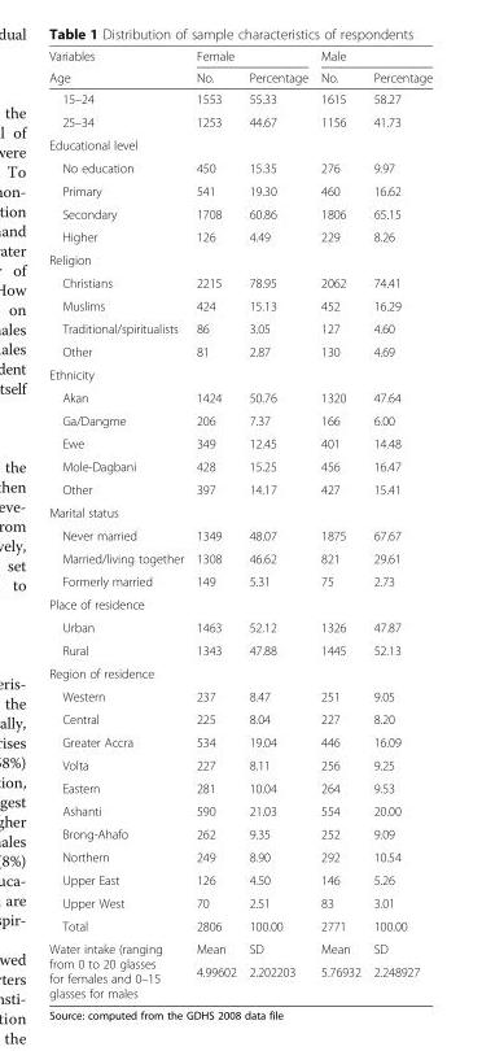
<table><thead><tr><td rowspan="2">Variables Age</td><td colspan="2">Female</td><td colspan="2">Male</td></tr><tr><td>No.</td><td>Percentage</td><td>No.</td><td>Percentage</td></tr></thead><tbody><tr><td>15–24</td><td>1553</td><td>55.33</td><td>1615</td><td>58.27</td></tr><tr><td>25–34</td><td>1253</td><td>44.67</td><td>1156</td><td>41.73</td></tr><tr><td colspan="5">Educational level</td></tr><tr><td>No education</td><td>450</td><td>15.35</td><td>276</td><td>9.97</td></tr><tr><td>Primary</td><td>541</td><td>19.30</td><td>460</td><td>16.62</td></tr><tr><td>Secondary</td><td>1708</td><td>60.86</td><td>1806</td><td>65.15</td></tr><tr><td>Higher</td><td>126</td><td>4.49</td><td>229</td><td>8.26</td></tr><tr><td colspan="5">Religion</td></tr><tr><td>Christians</td><td>2215</td><td>78.95</td><td>2062</td><td>74.41</td></tr><tr><td>Muslims</td><td>424</td><td>15.13</td><td>452</td><td>16.29</td></tr><tr><td>Traditional/spiritualists</td><td>86</td><td>3.05</td><td>127</td><td>4.60</td></tr><tr><td>Other</td><td>81</td><td>2.87</td><td>130</td><td>4.69</td></tr><tr><td colspan="5">Ethnicity</td></tr><tr><td>Akan</td><td>1424</td><td>50.76</td><td>1320</td><td>47.64</td></tr><tr><td>Ga/Dangme</td><td>206</td><td>7.37</td><td>166</td><td>6.00</td></tr><tr><td>Ewe</td><td>349</td><td>12.45</td><td>401</td><td>14.48</td></tr><tr><td>Mole-Dagbani</td><td>428</td><td>15.25</td><td>456</td><td>16.47</td></tr><tr><td>Other</td><td>397</td><td>14.17</td><td>427</td><td>15.41</td></tr><tr><td colspan="5">Marital status</td></tr><tr><td>Never married</td><td>1349</td><td>48.07</td><td>1875</td><td>67.67</td></tr><tr><td>Married/living together</td><td>1308</td><td>46.62</td><td>821</td><td>29.61</td></tr><tr><td>Formerly married</td><td>149</td><td>5.31</td><td>75</td><td>2.73</td></tr><tr><td colspan="5">Place of residence</td></tr><tr><td>Urban</td><td>1463</td><td>52.12</td><td>1326</td><td>47.87</td></tr><tr><td>Rural</td><td>1343</td><td>47.88</td><td>1445</td><td>52.13</td></tr><tr><td colspan="5">Region of residence</td></tr><tr><td>Western</td><td>237</td><td>8.47</td><td>251</td><td>9.05</td></tr><tr><td>Central</td><td>225</td><td>8.04</td><td>227</td><td>8.20</td></tr><tr><td>Greater Accra</td><td>534</td><td>19.04</td><td>446</td><td>16.09</td></tr><tr><td>Volta</td><td>227</td><td>8.11</td><td>256</td><td>9.25</td></tr><tr><td>Eastern</td><td>281</td><td>10.04</td><td>264</td><td>9.53</td></tr><tr><td>Ashanti</td><td>590</td><td>21.03</td><td>554</td><td>20.00</td></tr><tr><td>Brong-Ahafo</td><td>262</td><td>9.35</td><td>252</td><td>9.09</td></tr><tr><td>Northern</td><td>249</td><td>8.90</td><td>292</td><td>10.54</td></tr><tr><td>Upper East</td><td>126</td><td>4.50</td><td>146</td><td>5.26</td></tr><tr><td>Upper West</td><td>70</td><td>2.51</td><td>83</td><td>3.01</td></tr><tr><td>Total</td><td>2806</td><td>100.00</td><td>2771</td><td>100.00</td></tr><tr><td rowspan="2">Water intake (ranging from 0 to 20 glasses for females and 0–15 glasses for males</td><td>Mean</td><td>SD</td><td>Mean</td><td>SD</td></tr><tr><td>4.99602</td><td>2.202203</td><td>5.76932</td><td>2.248927</td></tr></tbody></table>